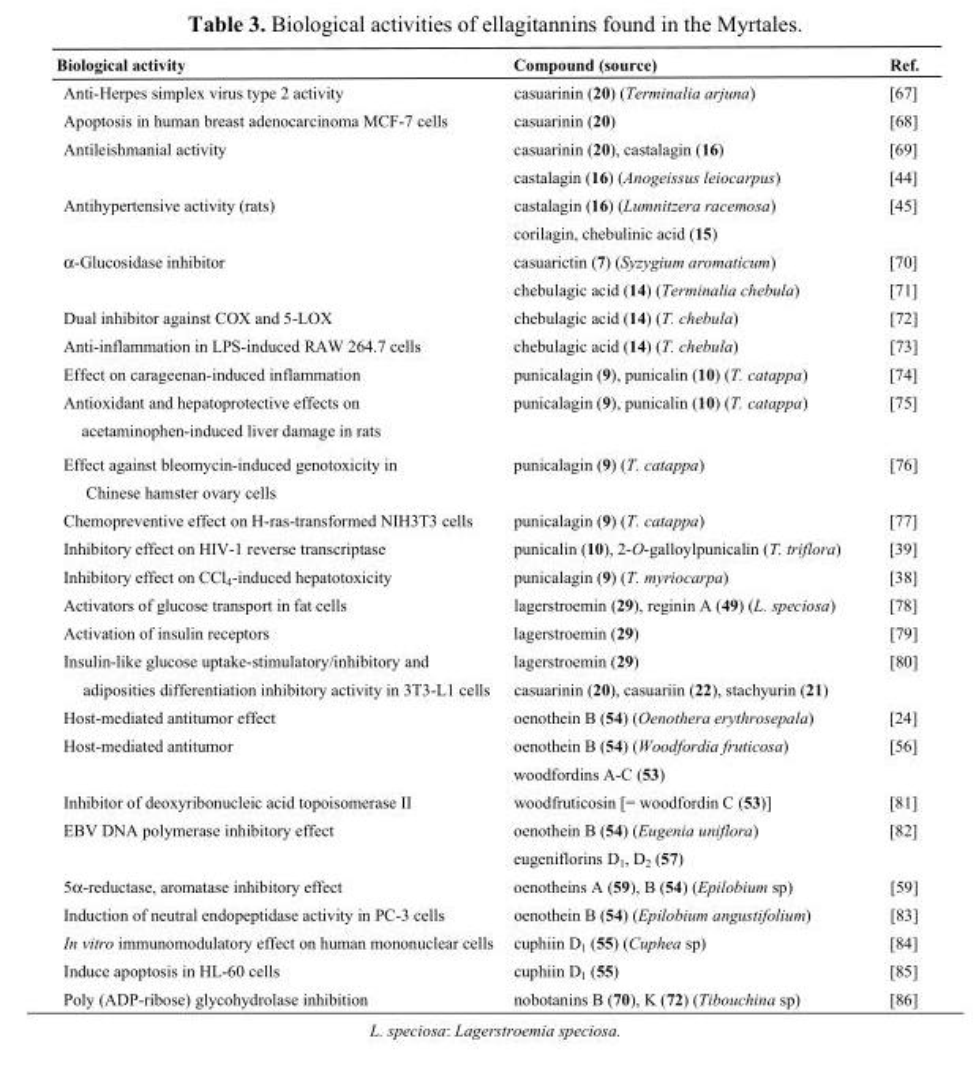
<table><thead><tr><td>Biological activity</td><td>Compound (source)</td><td>Ref.</td></tr></thead><tbody><tr><td>Anti-Herpes simplex virus type 2 activity</td><td>casuarinin (20) (Terminalia arjuna)</td><td>[67]</td></tr><tr><td>Apoptosis in human breast adenocarcinoma MCF-7 cells</td><td>casuarinin (20)</td><td>[68]</td></tr><tr><td rowspan="2">Antileishmanial activity</td><td>casuarinin (20), castalagin (16)</td><td>[69]</td></tr><tr><td>castalagin (16) (Anogeissus leiocarpus)</td><td>[44]</td></tr><tr><td rowspan="2">Antihypertensive activity (rats)</td><td>castalagin (16) (Lumnitzera racemosa)</td><td>[45]</td></tr><tr><td>corilagin, chebulinic acid (15)</td><td></td></tr><tr><td rowspan="2">α-Glucosidase inhibitor</td><td>casuarictin (7) (Syzygium aromaticum)</td><td>[70]</td></tr><tr><td>chebulagic acid (14) (Terminalia chebula)</td><td>[71]</td></tr><tr><td>Dual inhibitor against COX and 5-LOX</td><td>chebulagic acid (14) (T. chebula)</td><td>[72]</td></tr><tr><td>Anti-inflammation in LPS-induced RAW 264.7 cells</td><td>chebulagic acid (14) (T. chebula)</td><td>[73]</td></tr><tr><td>Effect on carageenan-induced inflammation</td><td>punicalagin (9), punicalin (10) (T. catappa)</td><td>[74]</td></tr><tr><td>Antioxidant and hepatoprotective effects on acetaminophen-induced liver damage in rats</td><td>punicalagin (9), punicalin (10) (T. catappa)</td><td>[75]</td></tr><tr><td>Effect against bleomycin-induced genotoxicity in Chinese hamster ovary cells</td><td>punicalagin (9) (T. catappa)</td><td>[76]</td></tr><tr><td>Chemopreventive effect on H-ras-transformed NIH3T3 cells</td><td>punicalagin (9) (T. catappa)</td><td>[77]</td></tr><tr><td>Inhibitory effect on HIV-1 reverse transcriptase</td><td>punicalin (10), 2-O-galloylpunicalin (T. triflora)</td><td>[39]</td></tr><tr><td>Inhibitory effect on CCl<sub>4</sub>-induced hepatotoxicity</td><td>punicalagin (9) (T. myriocarpa)</td><td>[38]</td></tr><tr><td>Activators of glucose transport in fat cells</td><td>lagerstroemin (29), reginin A (49) (L. speciosa)</td><td>[78]</td></tr><tr><td>Activation of insulin receptors</td><td>lagerstroemin (29)</td><td>[79]</td></tr><tr><td>Insulin-like glucose uptake-stimulatory/inhibitory and adiposities differentiation inhibitory activity in 3T3-L1 cells</td><td>lagerstroemin (29) casuarinin (20), casuariin (22), stachyurin (21)</td><td>[80]</td></tr><tr><td>Host-mediated antitumor effect</td><td>oenothein B (54) (Oenothera erythrosepala)</td><td>[24]</td></tr><tr><td rowspan="2">Host-mediated antitumor</td><td>oenothein B (54) (Woodfordia fruticosa)</td><td>[56]</td></tr><tr><td>woodfordins A-C (53)</td><td></td></tr><tr><td>Inhibitor of deoxyribonucleic acid topoisomerase II</td><td>woodfruticosin [= woodfordin C (53)]</td><td>[81]</td></tr><tr><td rowspan="2">EBV DNA polymerase inhibitory effect</td><td>oenothein B (54) (Eugenia uniflora)</td><td>[82]</td></tr><tr><td>eugeniflorins D<sub>1</sub>, D<sub>2</sub> (57)</td><td></td></tr><tr><td>5α-reductase, aromatase inhibitory effect</td><td>oenotheins A (59), B (54) (Epilobium sp)</td><td>[59]</td></tr><tr><td>Induction of neutral endopeptidase activity in PC-3 cells</td><td>oenothein B (54) (Epilobium angustifolium)</td><td>[83]</td></tr><tr><td>In vitro immunomodulatory effect on human mononuclear cells</td><td>cuphiin D<sub>1</sub> (55) (Cuphea sp)</td><td>[84]</td></tr><tr><td>Induce apoptosis in HL-60 cells</td><td>cuphiin D<sub>1</sub> (55)</td><td>[85]</td></tr><tr><td>Poly (ADP-ribose) glycohydrolase inhibition</td><td>nobotanins B (70), K (72) (Tibouchina sp)</td><td>[86]</td></tr></tbody></table>